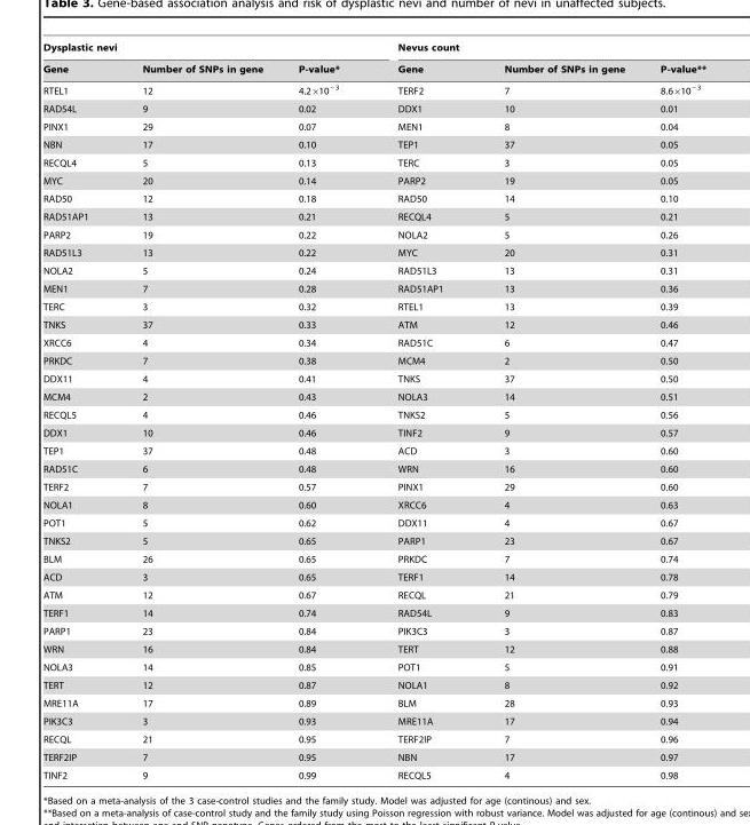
<table><thead><tr><td colspan="3">Dysplastic nevi</td><td colspan="3">Nevus count</td></tr><tr><td>Gene</td><td>Number of SNPs in gene</td><td>P-value*</td><td>Gene</td><td>Number of SNPs in gene</td><td>P-value**</td></tr></thead><tbody><tr><td>RTEL1</td><td>12</td><td>4.2×10<sup>−3</sup></td><td>TERF2</td><td>7</td><td>8.6×10<sup>−3</sup></td></tr><tr><td>RAD54L</td><td>9</td><td>0.02</td><td>DDX1</td><td>10</td><td>0.01</td></tr><tr><td>PINX1</td><td>29</td><td>0.07</td><td>MEN1</td><td>8</td><td>0.04</td></tr><tr><td>NBN</td><td>17</td><td>0.10</td><td>TEP1</td><td>37</td><td>0.05</td></tr><tr><td>RECQL4</td><td>5</td><td>0.13</td><td>TERC</td><td>3</td><td>0.05</td></tr><tr><td>MYC</td><td>20</td><td>0.14</td><td>PARP2</td><td>19</td><td>0.05</td></tr><tr><td>RAD50</td><td>12</td><td>0.18</td><td>RAD50</td><td>14</td><td>0.10</td></tr><tr><td>RAD51AP1</td><td>13</td><td>0.21</td><td>RECQL4</td><td>5</td><td>0.21</td></tr><tr><td>PARP2</td><td>19</td><td>0.22</td><td>NOLA2</td><td>5</td><td>0.26</td></tr><tr><td>RAD51L3</td><td>13</td><td>0.22</td><td>MYC</td><td>20</td><td>0.31</td></tr><tr><td>NOLA2</td><td>5</td><td>0.24</td><td>RAD51L3</td><td>13</td><td>0.31</td></tr><tr><td>MEN1</td><td>7</td><td>0.28</td><td>RAD51AP1</td><td>13</td><td>0.36</td></tr><tr><td>TERC</td><td>3</td><td>0.32</td><td>RTEL1</td><td>13</td><td>0.39</td></tr><tr><td>TNKS</td><td>37</td><td>0.33</td><td>ATM</td><td>12</td><td>0.46</td></tr><tr><td>XRCC6</td><td>4</td><td>0.34</td><td>RAD51C</td><td>6</td><td>0.47</td></tr><tr><td>PRKDC</td><td>7</td><td>0.38</td><td>MCM4</td><td>2</td><td>0.50</td></tr><tr><td>DDX11</td><td>4</td><td>0.41</td><td>TNKS</td><td>37</td><td>0.50</td></tr><tr><td>MCM4</td><td>2</td><td>0.43</td><td>NOLA3</td><td>14</td><td>0.51</td></tr><tr><td>RECQL5</td><td>4</td><td>0.46</td><td>TNKS2</td><td>5</td><td>0.56</td></tr><tr><td>DDX1</td><td>10</td><td>0.46</td><td>TINF2</td><td>9</td><td>0.57</td></tr><tr><td>TEP1</td><td>37</td><td>0.48</td><td>ACD</td><td>3</td><td>0.60</td></tr><tr><td>RAD51C</td><td>6</td><td>0.48</td><td>WRN</td><td>16</td><td>0.60</td></tr><tr><td>TERF2</td><td>7</td><td>0.57</td><td>PINX1</td><td>29</td><td>0.60</td></tr><tr><td>NOLA1</td><td>8</td><td>0.60</td><td>XRCC6</td><td>4</td><td>0.63</td></tr><tr><td>POT1</td><td>5</td><td>0.62</td><td>DDX11</td><td>4</td><td>0.67</td></tr><tr><td>TNKS2</td><td>5</td><td>0.65</td><td>PARP1</td><td>23</td><td>0.67</td></tr><tr><td>BLM</td><td>26</td><td>0.65</td><td>PRKDC</td><td>7</td><td>0.74</td></tr><tr><td>ACD</td><td>3</td><td>0.65</td><td>TERF1</td><td>14</td><td>0.78</td></tr><tr><td>ATM</td><td>12</td><td>0.67</td><td>RECQL</td><td>21</td><td>0.79</td></tr><tr><td>TERF1</td><td>14</td><td>0.74</td><td>RAD54L</td><td>9</td><td>0.83</td></tr><tr><td>PARP1</td><td>23</td><td>0.84</td><td>PIK3C3</td><td>3</td><td>0.87</td></tr><tr><td>WRN</td><td>16</td><td>0.84</td><td>TERT</td><td>12</td><td>0.88</td></tr><tr><td>NOLA3</td><td>14</td><td>0.85</td><td>POT1</td><td>5</td><td>0.91</td></tr><tr><td>TERT</td><td>12</td><td>0.87</td><td>NOLA1</td><td>8</td><td>0.92</td></tr><tr><td>MRE11A</td><td>17</td><td>0.89</td><td>BLM</td><td>28</td><td>0.93</td></tr><tr><td>PIK3C3</td><td>3</td><td>0.93</td><td>MRE11A</td><td>17</td><td>0.94</td></tr><tr><td>RECQL</td><td>21</td><td>0.95</td><td>TERF2IP</td><td>7</td><td>0.96</td></tr><tr><td>TERF2IP</td><td>7</td><td>0.95</td><td>NBN</td><td>17</td><td>0.97</td></tr><tr><td>TINF2</td><td>9</td><td>0.99</td><td>RECQL5</td><td>4</td><td>0.98</td></tr></tbody></table>